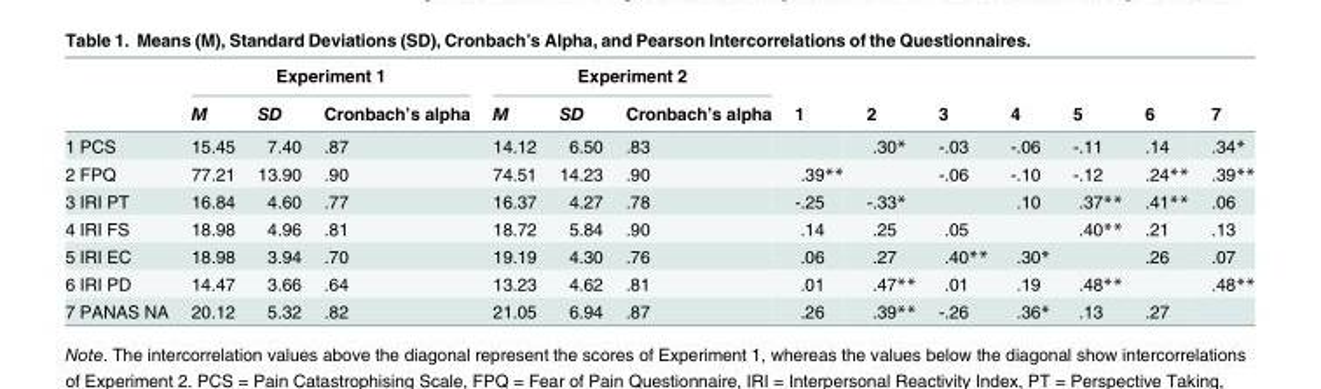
<table><thead><tr><td rowspan="2"></td><td colspan="3">Experiment 1</td><td colspan="3">Experiment 2</td><td rowspan="2">1</td><td rowspan="2">2</td><td rowspan="2">3</td><td rowspan="2">4</td><td rowspan="2">5</td><td rowspan="2">6</td><td rowspan="2">7</td></tr><tr><td>M</td><td>SD</td><td>Cronbach’s alpha</td><td>M</td><td>SD</td><td>Cronbach’s alpha</td></tr></thead><tbody><tr><td>1 PCS</td><td>15.45</td><td>7.40</td><td>.87</td><td>14.12</td><td>6.50</td><td>.83</td><td></td><td>.30*</td><td>-.03</td><td>-.06</td><td>-.11</td><td>.14</td><td>.34*</td></tr><tr><td>2 FPQ</td><td>77.21</td><td>13.90</td><td>.90</td><td>74.51</td><td>14.23</td><td>.90</td><td>.39**</td><td></td><td>-.06</td><td>-.10</td><td>-.12</td><td>.24**</td><td>.39**</td></tr><tr><td>3 IRI PT</td><td>16.84</td><td>4.60</td><td>.77</td><td>16.37</td><td>4.27</td><td>.78</td><td>-.25</td><td>-.33*</td><td></td><td>.10</td><td>.37**</td><td>.41**</td><td>.06</td></tr><tr><td>4 IRI FS</td><td>18.98</td><td>4.96</td><td>.81</td><td>18.72</td><td>5.84</td><td>.90</td><td>.14</td><td>.25</td><td>.05</td><td></td><td>.40**</td><td>.21</td><td>.13</td></tr><tr><td>5 IRI EC</td><td>18.98</td><td>3.94</td><td>.70</td><td>19.19</td><td>4.30</td><td>.76</td><td>.06</td><td>.27</td><td>.40**</td><td>.30*</td><td></td><td>.26</td><td>.07</td></tr><tr><td>6 IRI PD</td><td>14.47</td><td>3.66</td><td>.64</td><td>13.23</td><td>4.62</td><td>.81</td><td>.01</td><td>.47**</td><td>.01</td><td>.19</td><td>.48**</td><td></td><td>.48**</td></tr><tr><td>7 PANAS NA</td><td>20.12</td><td>5.32</td><td>.82</td><td>21.05</td><td>6.94</td><td>.87</td><td>.26</td><td>.39**</td><td>-.26</td><td>.36*</td><td>.13</td><td>.27</td><td></td></tr></tbody></table>